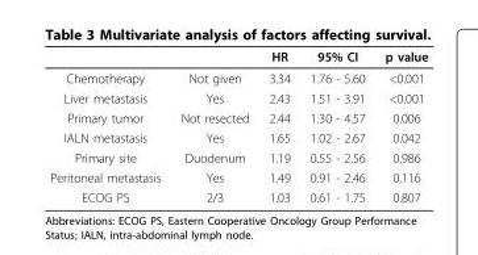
<table><thead><tr><td></td><td></td><td>HR</td><td>95% CI</td><td>p value</td></tr></thead><tbody><tr><td>Chemotherapy</td><td>Not given</td><td>3.34</td><td>1.76 - 5.60</td><td>&lt;0.001</td></tr><tr><td>Liver metastasis</td><td>Yes</td><td>2.43</td><td>1.51 - 3.91</td><td>&lt;0.001</td></tr><tr><td>Primary tumor</td><td>Not resected</td><td>2.44</td><td>1.30 - 4.57</td><td>0.006</td></tr><tr><td>IALN metastasis</td><td>Yes</td><td>1.65</td><td>1.02 - 2.67</td><td>0.042</td></tr><tr><td>Primary site</td><td>Duodenum</td><td>1.19</td><td>0.55 - 2.56</td><td>0.986</td></tr><tr><td>Peritoneal metastasis</td><td>Yes</td><td>1.49</td><td>0.91 - 2.46</td><td>0.116</td></tr><tr><td>ECOG PS</td><td>2/3</td><td>1.03</td><td>0.61 - 1.75</td><td>0.807</td></tr></tbody></table>